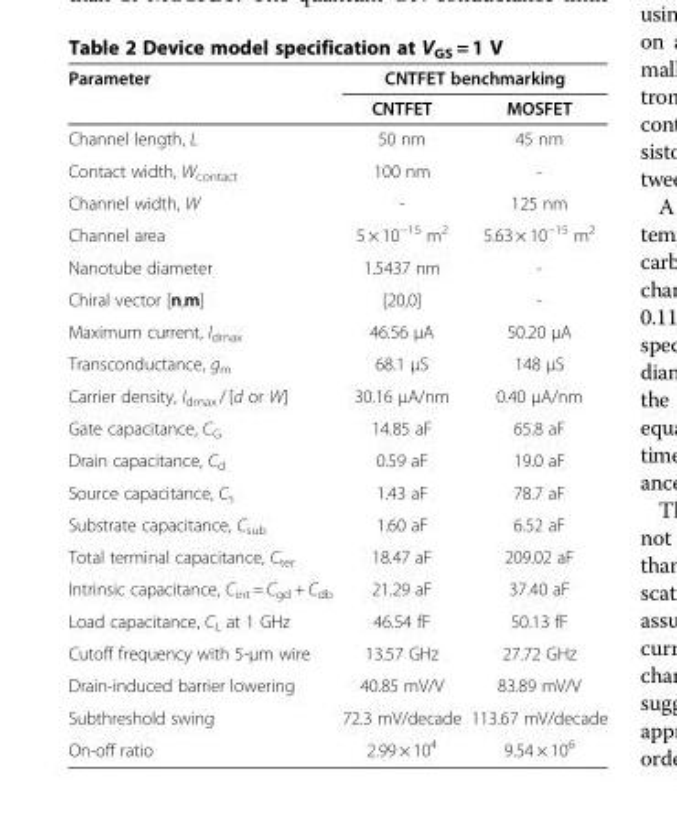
<table><thead><tr><td rowspan="2">Parameter</td><td colspan="2">CNTFET benchmarking</td></tr><tr><td>CNTFET</td><td>MOSFET</td></tr></thead><tbody><tr><td>Channel length, L</td><td>50 nm</td><td>45 nm</td></tr><tr><td>Contact width, W<sub>contact</sub></td><td>100 nm</td><td>-</td></tr><tr><td>Channel width, W</td><td>-</td><td>125 nm</td></tr><tr><td>Channel area</td><td>5 × 10<sup>−15</sup> m<sup>2</sup></td><td>5.63 × 10<sup>−15</sup> m<sup>2</sup></td></tr><tr><td>Nanotube diameter</td><td>1.5437 nm</td><td>-</td></tr><tr><td>Chiral vector [n,m]</td><td>[20,0]</td><td>-</td></tr><tr><td>Maximum current, I<sub>dmax</sub></td><td>46.56 μA</td><td>50.20 μA</td></tr><tr><td>Transconductance, g<sub>m</sub></td><td>68.1 μS</td><td>148 μS</td></tr><tr><td>Carrier density, I<sub>dmax</sub> / [d or W]</td><td>30.16 μA/nm</td><td>0.40 μA/nm</td></tr><tr><td>Gate capacitance, C<sub>G</sub></td><td>14.85 aF</td><td>65.8 aF</td></tr><tr><td>Drain capacitance, C<sub>d</sub></td><td>0.59 aF</td><td>19.0 aF</td></tr><tr><td>Source capacitance, C<sub>s</sub></td><td>1.43 aF</td><td>78.7 aF</td></tr><tr><td>Substrate capacitance, C<sub>sub</sub></td><td>1.60 aF</td><td>6.52 aF</td></tr><tr><td>Total terminal capacitance, C<sub>ter</sub></td><td>18.47 aF</td><td>209.02 aF</td></tr><tr><td>Intrinsic capacitance, C<sub>int</sub> = C<sub>gd</sub> + C<sub>db</sub></td><td>21.29 aF</td><td>37.40 aF</td></tr><tr><td>Load capacitance, C<sub>L</sub> at 1 GHz</td><td>46.54 fF</td><td>50.13 fF</td></tr><tr><td>Cutoff frequency with 5-μm wire</td><td>13.57 GHz</td><td>27.72 GHz</td></tr><tr><td>Drain-induced barrier lowering</td><td>40.85 mV/V</td><td>83.89 mV/V</td></tr><tr><td>Subthreshold swing</td><td>72.3 mV/decade</td><td>113.67 mV/decade</td></tr><tr><td>On-off ratio</td><td>2.99 × 10<sup>4</sup></td><td>9.54 × 10<sup>6</sup></td></tr></tbody></table>